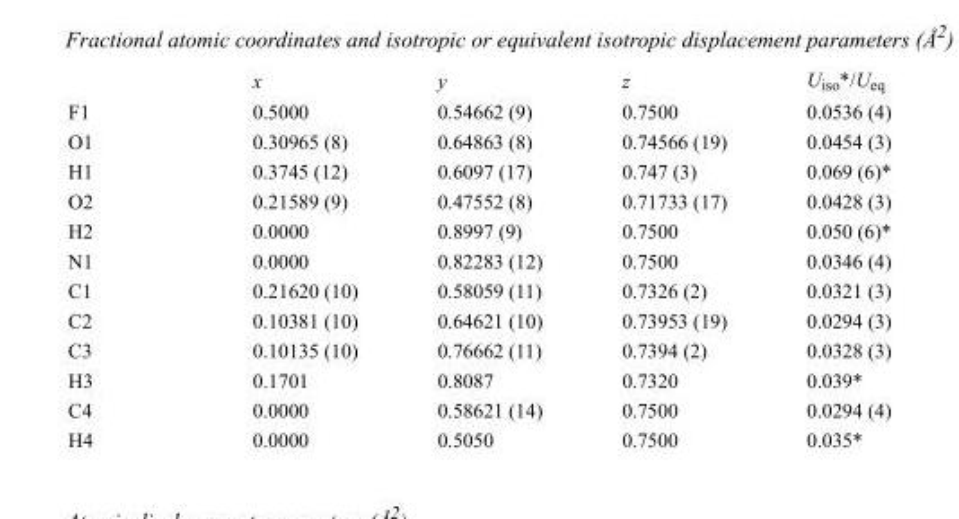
<table><thead><tr><td></td><td>x</td><td>y</td><td>z</td><td>U<sub>iso</sub>*/U<sub>eq</sub></td></tr></thead><tbody><tr><td>F1</td><td>0.5000</td><td>0.54662 (9)</td><td>0.7500</td><td>0.0536 (4)</td></tr><tr><td>O1</td><td>0.30965 (8)</td><td>0.64863 (8)</td><td>0.74566 (19)</td><td>0.0454 (3)</td></tr><tr><td>H1</td><td>0.3745 (12)</td><td>0.6097 (17)</td><td>0.747 (3)</td><td>0.069 (6)*</td></tr><tr><td>O2</td><td>0.21589 (9)</td><td>0.47552 (8)</td><td>0.71733 (17)</td><td>0.0428 (3)</td></tr><tr><td>H2</td><td>0.0000</td><td>0.8997 (9)</td><td>0.7500</td><td>0.050 (6)*</td></tr><tr><td>N1</td><td>0.0000</td><td>0.82283 (12)</td><td>0.7500</td><td>0.0346 (4)</td></tr><tr><td>C1</td><td>0.21620 (10)</td><td>0.58059 (11)</td><td>0.7326 (2)</td><td>0.0321 (3)</td></tr><tr><td>C2</td><td>0.10381 (10)</td><td>0.64621 (10)</td><td>0.73953 (19)</td><td>0.0294 (3)</td></tr><tr><td>C3</td><td>0.10135 (10)</td><td>0.76662 (11)</td><td>0.7394 (2)</td><td>0.0328 (3)</td></tr><tr><td>H3</td><td>0.1701</td><td>0.8087</td><td>0.7320</td><td>0.039*</td></tr><tr><td>C4</td><td>0.0000</td><td>0.58621 (14)</td><td>0.7500</td><td>0.0294 (4)</td></tr><tr><td>H4</td><td>0.0000</td><td>0.5050</td><td>0.7500</td><td>0.035*</td></tr></tbody></table>